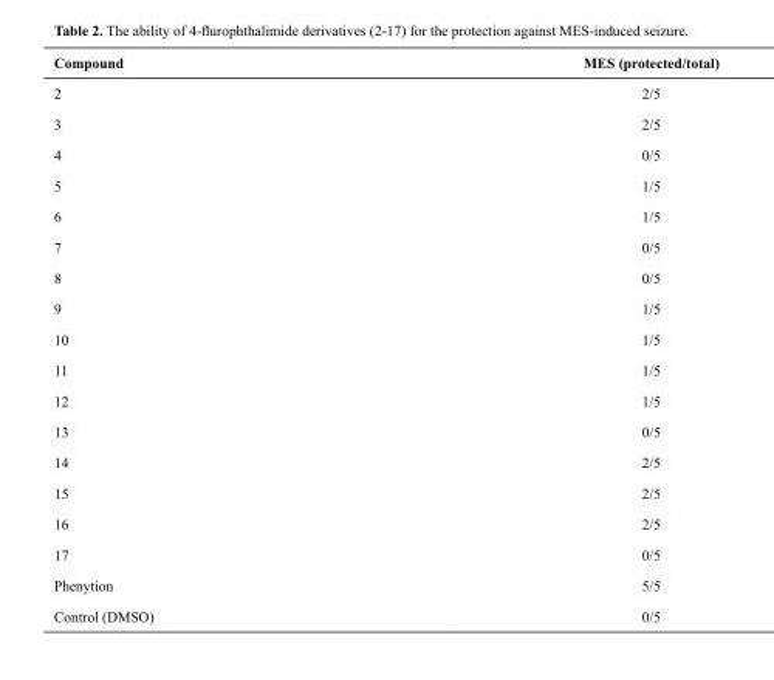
<table><thead><tr><td>Compound</td><td>MES (protected/total)</td></tr></thead><tbody><tr><td>2</td><td>2/5</td></tr><tr><td>3</td><td>2/5</td></tr><tr><td>4</td><td>0/5</td></tr><tr><td>5</td><td>1/5</td></tr><tr><td>6</td><td>1/5</td></tr><tr><td>7</td><td>0/5</td></tr><tr><td>8</td><td>0/5</td></tr><tr><td>9</td><td>1/5</td></tr><tr><td>10</td><td>1/5</td></tr><tr><td>11</td><td>1/5</td></tr><tr><td>12</td><td>1/5</td></tr><tr><td>13</td><td>0/5</td></tr><tr><td>14</td><td>2/5</td></tr><tr><td>15</td><td>2/5</td></tr><tr><td>16</td><td>2/5</td></tr><tr><td>17</td><td>0/5</td></tr><tr><td>Phenytion</td><td>5/5</td></tr><tr><td>Control (DMSO)</td><td>0/5</td></tr></tbody></table>